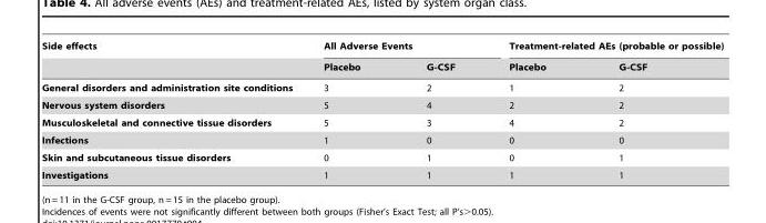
<table><thead><tr><td rowspan="2">Side effects</td><td colspan="2">All Adverse Events</td><td colspan="2">Treatment-related AEs (probable or possible)</td></tr><tr><td>Placebo</td><td>G-CSF</td><td>Placebo</td><td>G-CSF</td></tr></thead><tbody><tr><td>General disorders and administration site conditions</td><td>3</td><td>2</td><td>1</td><td>2</td></tr><tr><td>Nervous system disorders</td><td>5</td><td>4</td><td>2</td><td>2</td></tr><tr><td>Musculoskeletal and connective tissue disorders</td><td>5</td><td>3</td><td>4</td><td>2</td></tr><tr><td>Infections</td><td>1</td><td>0</td><td>0</td><td>0</td></tr><tr><td>Skin and subcutaneous tissue disorders</td><td>0</td><td>1</td><td>0</td><td>1</td></tr><tr><td>Investigations</td><td>1</td><td>1</td><td>1</td><td>1</td></tr></tbody></table>